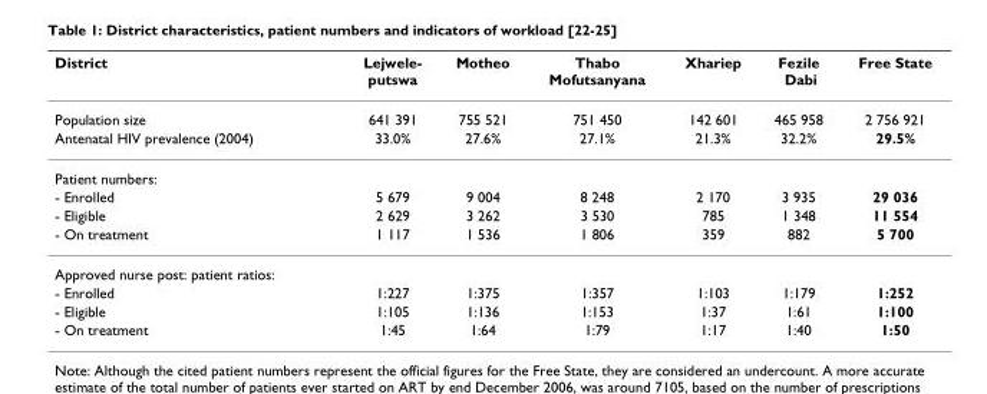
<table><thead><tr><td>District</td><td>Lejwele- putswa</td><td>Motheo</td><td>Thabo Mofutsanyana</td><td>Xhariep</td><td>Fezile Dabi</td><td>Free State</td></tr></thead><tbody><tr><td>Population size</td><td>641 391</td><td>755 521</td><td>751 450</td><td>142 601</td><td>465 958</td><td>2 756 921</td></tr><tr><td>Antenatal HIV prevalence (2004)</td><td>33.0%</td><td>27.6%</td><td>27.1%</td><td>21.3%</td><td>32.2%</td><td>29.5%</td></tr><tr><td colspan="7">Patient numbers:</td></tr><tr><td>- Enrolled</td><td>5 679</td><td>9 004</td><td>8 248</td><td>2 170</td><td>3 935</td><td>29 036</td></tr><tr><td>- Eligible</td><td>2 629</td><td>3 262</td><td>3 530</td><td>785</td><td>1 348</td><td>11 554</td></tr><tr><td>- On treatment</td><td>1 117</td><td>1 536</td><td>1 806</td><td>359</td><td>882</td><td>5 700</td></tr><tr><td colspan="7">Approved nurse post: patient ratios:</td></tr><tr><td>- Enrolled</td><td>1:227</td><td>1:375</td><td>1:357</td><td>1:103</td><td>1:179</td><td>1:252</td></tr><tr><td>- Eligible</td><td>1:105</td><td>1:136</td><td>1:153</td><td>1:37</td><td>1:61</td><td>1:100</td></tr><tr><td>- On treatment</td><td>1:45</td><td>1:64</td><td>1:79</td><td>1:17</td><td>1:40</td><td>1:50</td></tr></tbody></table>